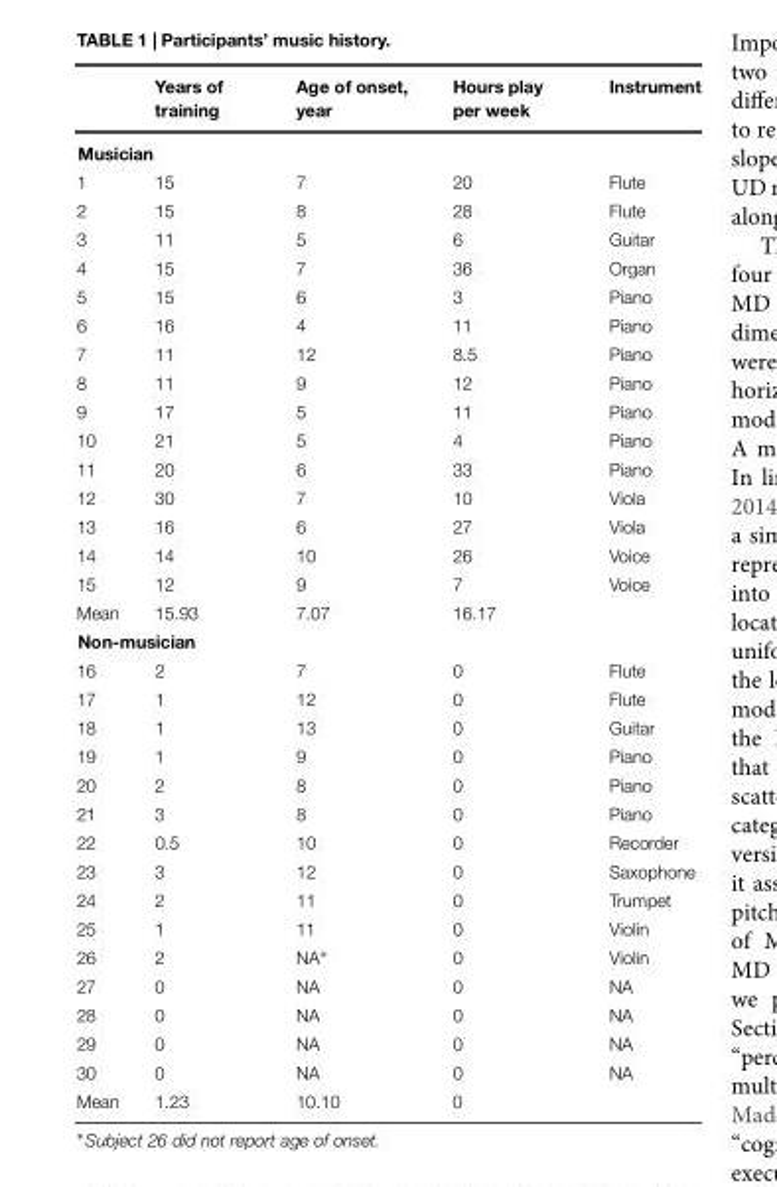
<table><thead><tr><td></td><td>Years of training</td><td>Age of onset, year</td><td>Hours play per week</td><td>Instrument</td></tr></thead><tbody><tr><td colspan="5">Musician</td></tr><tr><td>1</td><td>15</td><td>7</td><td>20</td><td>Flute</td></tr><tr><td>2</td><td>15</td><td>8</td><td>28</td><td>Flute</td></tr><tr><td>3</td><td>11</td><td>5</td><td>6</td><td>Guitar</td></tr><tr><td>4</td><td>15</td><td>7</td><td>36</td><td>Organ</td></tr><tr><td>5</td><td>15</td><td>6</td><td>3</td><td>Piano</td></tr><tr><td>6</td><td>16</td><td>4</td><td>11</td><td>Piano</td></tr><tr><td>7</td><td>11</td><td>12</td><td>8.5</td><td>Piano</td></tr><tr><td>8</td><td>11</td><td>9</td><td>12</td><td>Piano</td></tr><tr><td>9</td><td>17</td><td>5</td><td>11</td><td>Piano</td></tr><tr><td>10</td><td>21</td><td>5</td><td>4</td><td>Piano</td></tr><tr><td>11</td><td>20</td><td>6</td><td>33</td><td>Piano</td></tr><tr><td>12</td><td>30</td><td>7</td><td>10</td><td>Viola</td></tr><tr><td>13</td><td>16</td><td>6</td><td>27</td><td>Viola</td></tr><tr><td>14</td><td>14</td><td>10</td><td>26</td><td>Voice</td></tr><tr><td>15</td><td>12</td><td>9</td><td>7</td><td>Voice</td></tr><tr><td>Mean</td><td>15.93</td><td>7.07</td><td>16.17</td><td></td></tr><tr><td colspan="5">Non-musician</td></tr><tr><td>16</td><td>2</td><td>7</td><td>0</td><td>Flute</td></tr><tr><td>17</td><td>1</td><td>12</td><td>0</td><td>Flute</td></tr><tr><td>18</td><td>1</td><td>13</td><td>0</td><td>Guitar</td></tr><tr><td>19</td><td>1</td><td>9</td><td>0</td><td>Piano</td></tr><tr><td>20</td><td>2</td><td>8</td><td>0</td><td>Piano</td></tr><tr><td>21</td><td>3</td><td>8</td><td>0</td><td>Piano</td></tr><tr><td>22</td><td>0.5</td><td>10</td><td>0</td><td>Recorder</td></tr><tr><td>23</td><td>3</td><td>12</td><td>0</td><td>Saxophone</td></tr><tr><td>24</td><td>2</td><td>11</td><td>0</td><td>Trumpet</td></tr><tr><td>25</td><td>1</td><td>11</td><td>0</td><td>Violin</td></tr><tr><td>26</td><td>2</td><td>NA∗</td><td>0</td><td>Violin</td></tr><tr><td>27</td><td>0</td><td>NA</td><td>0</td><td>NA</td></tr><tr><td>28</td><td>0</td><td>NA</td><td>0</td><td>NA</td></tr><tr><td>29</td><td>0</td><td>NA</td><td>0</td><td>NA</td></tr><tr><td>30</td><td>0</td><td>NA</td><td>0</td><td>NA</td></tr><tr><td>Mean</td><td>1.23</td><td>10.10</td><td>0</td><td></td></tr></tbody></table>